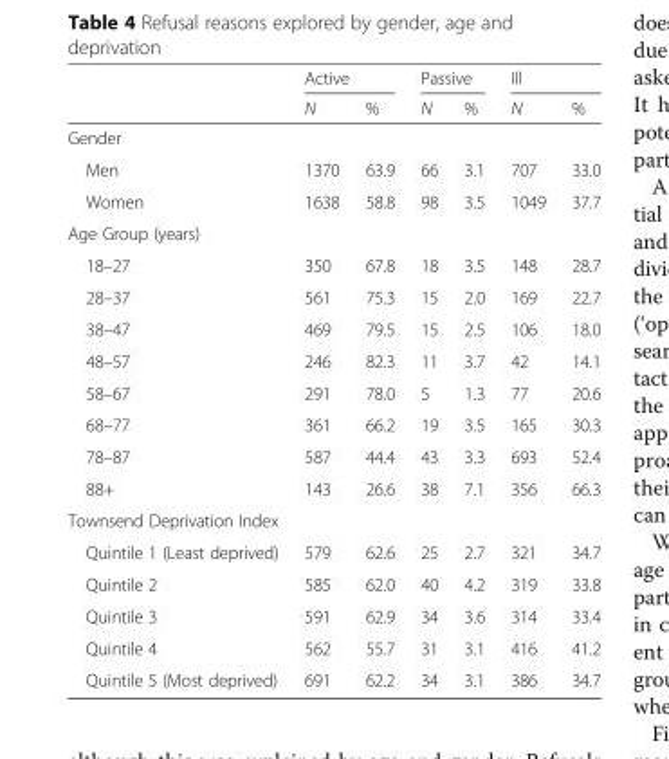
<table><thead><tr><td rowspan="2"></td><td colspan="2">Active</td><td colspan="2">Passive</td><td colspan="2">Ill</td></tr><tr><td>N</td><td>%</td><td>N</td><td>%</td><td>N</td><td>%</td></tr></thead><tbody><tr><td colspan="7">Gender</td></tr><tr><td>Men</td><td>1370</td><td>63.9</td><td>66</td><td>3.1</td><td>707</td><td>33.0</td></tr><tr><td>Women</td><td>1638</td><td>58.8</td><td>98</td><td>3.5</td><td>1049</td><td>37.7</td></tr><tr><td colspan="7">Age Group (years)</td></tr><tr><td>18–27</td><td>350</td><td>67.8</td><td>18</td><td>3.5</td><td>148</td><td>28.7</td></tr><tr><td>28–37</td><td>561</td><td>75.3</td><td>15</td><td>2.0</td><td>169</td><td>22.7</td></tr><tr><td>38–47</td><td>469</td><td>79.5</td><td>15</td><td>2.5</td><td>106</td><td>18.0</td></tr><tr><td>48–57</td><td>246</td><td>82.3</td><td>11</td><td>3.7</td><td>42</td><td>14.1</td></tr><tr><td>58–67</td><td>291</td><td>78.0</td><td>5</td><td>1.3</td><td>77</td><td>20.6</td></tr><tr><td>68–77</td><td>361</td><td>66.2</td><td>19</td><td>3.5</td><td>165</td><td>30.3</td></tr><tr><td>78–87</td><td>587</td><td>44.4</td><td>43</td><td>3.3</td><td>693</td><td>52.4</td></tr><tr><td>88+</td><td>143</td><td>26.6</td><td>38</td><td>7.1</td><td>356</td><td>66.3</td></tr><tr><td colspan="7">Townsend Deprivation Index</td></tr><tr><td>Quintile 1 (Least deprived)</td><td>579</td><td>62.6</td><td>25</td><td>2.7</td><td>321</td><td>34.7</td></tr><tr><td>Quintile 2</td><td>585</td><td>62.0</td><td>40</td><td>4.2</td><td>319</td><td>33.8</td></tr><tr><td>Quintile 3</td><td>591</td><td>62.9</td><td>34</td><td>3.6</td><td>314</td><td>33.4</td></tr><tr><td>Quintile 4</td><td>562</td><td>55.7</td><td>31</td><td>3.1</td><td>416</td><td>41.2</td></tr><tr><td>Quintile 5 (Most deprived)</td><td>691</td><td>62.2</td><td>34</td><td>3.1</td><td>386</td><td>34.7</td></tr></tbody></table>